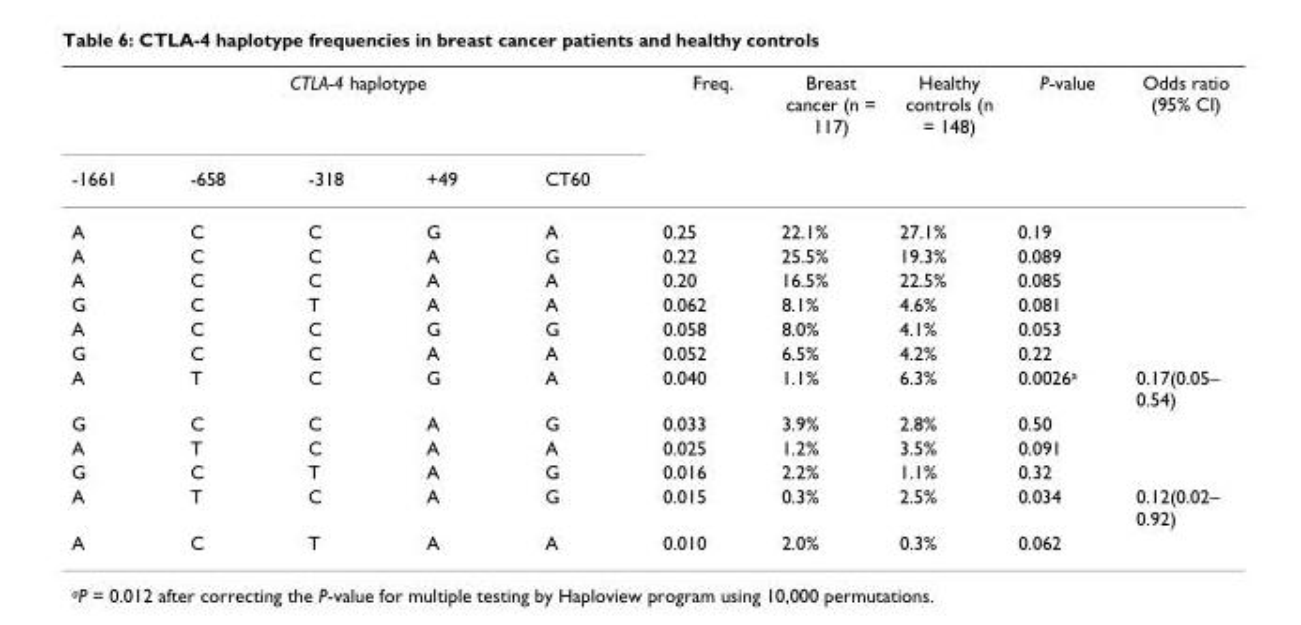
<table><thead><tr><td colspan="5">CTLA-4 haplotype</td><td rowspan="2">Freq.</td><td rowspan="2">Breast cancer (n = 117)</td><td rowspan="2">Healthy controls (n = 148)</td><td rowspan="2">P-value</td><td rowspan="2">Odds ratio (95% CI)</td></tr><tr><td>-1661</td><td>-658</td><td>-318</td><td>+49</td><td>CT60</td></tr></thead><tbody><tr><td>A</td><td>C</td><td>C</td><td>G</td><td>A</td><td>0.25</td><td>22.1%</td><td>27.1%</td><td>0.19</td><td></td></tr><tr><td>A</td><td>C</td><td>C</td><td>A</td><td>G</td><td>0.22</td><td>25.5%</td><td>19.3%</td><td>0.089</td><td></td></tr><tr><td>A</td><td>C</td><td>C</td><td>A</td><td>A</td><td>0.20</td><td>16.5%</td><td>22.5%</td><td>0.085</td><td></td></tr><tr><td>G</td><td>C</td><td>T</td><td>A</td><td>A</td><td>0.062</td><td>8.1%</td><td>4.6%</td><td>0.081</td><td></td></tr><tr><td>A</td><td>C</td><td>C</td><td>G</td><td>G</td><td>0.058</td><td>8.0%</td><td>4.1%</td><td>0.053</td><td></td></tr><tr><td>G</td><td>C</td><td>C</td><td>A</td><td>A</td><td>0.052</td><td>6.5%</td><td>4.2%</td><td>0.22</td><td></td></tr><tr><td>A</td><td>T</td><td>C</td><td>G</td><td>A</td><td>0.040</td><td>1.1%</td><td>6.3%</td><td>0.0026<sup>a</sup></td><td>0.17(0.05– 0.54)</td></tr><tr><td>G</td><td>C</td><td>C</td><td>A</td><td>G</td><td>0.033</td><td>3.9%</td><td>2.8%</td><td>0.50</td><td></td></tr><tr><td>A</td><td>T</td><td>C</td><td>A</td><td>A</td><td>0.025</td><td>1.2%</td><td>3.5%</td><td>0.091</td><td></td></tr><tr><td>G</td><td>C</td><td>T</td><td>A</td><td>G</td><td>0.016</td><td>2.2%</td><td>1.1%</td><td>0.32</td><td></td></tr><tr><td>A</td><td>T</td><td>C</td><td>A</td><td>G</td><td>0.015</td><td>0.3%</td><td>2.5%</td><td>0.034</td><td>0.12(0.02– 0.92)</td></tr><tr><td>A</td><td>C</td><td>T</td><td>A</td><td>A</td><td>0.010</td><td>2.0%</td><td>0.3%</td><td>0.062</td><td></td></tr></tbody></table>